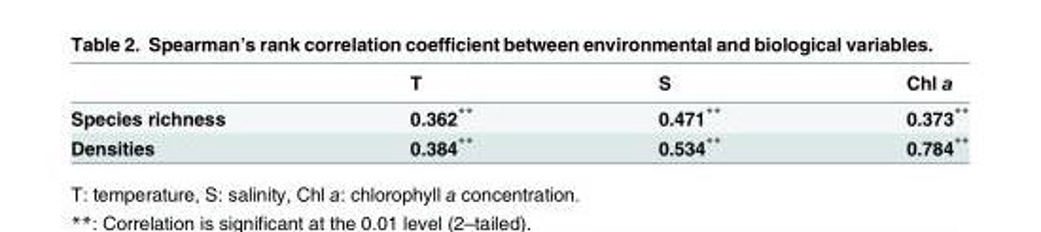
<table><thead><tr><td></td><td>T</td><td>S</td><td>Chl a</td></tr></thead><tbody><tr><td>Species richness</td><td>0.362**</td><td>0.471**</td><td>0.373**</td></tr><tr><td>Densities</td><td>0.384**</td><td>0.534**</td><td>0.784**</td></tr></tbody></table>